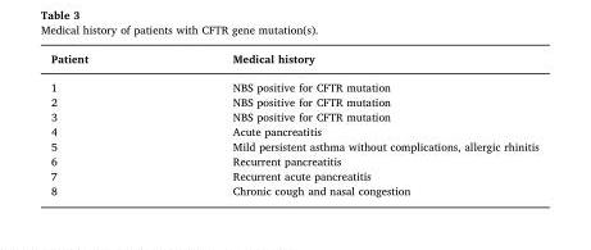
<table><thead><tr><td>Patient</td><td>Medical history</td></tr></thead><tbody><tr><td>1</td><td>NBS positive for CFTR mutation</td></tr><tr><td>2</td><td>NBS positive for CFTR mutation</td></tr><tr><td>3</td><td>NBS positive for CFTR mutation</td></tr><tr><td>4</td><td>Acute pancreatitis</td></tr><tr><td>5</td><td>Mild persistent asthma without complications, allergic rhinitis</td></tr><tr><td>6</td><td>Recurrent pancreatitis</td></tr><tr><td>7</td><td>Recurrent acute pancreatitis</td></tr><tr><td>8</td><td>Chronic cough and nasal congestion</td></tr></tbody></table>